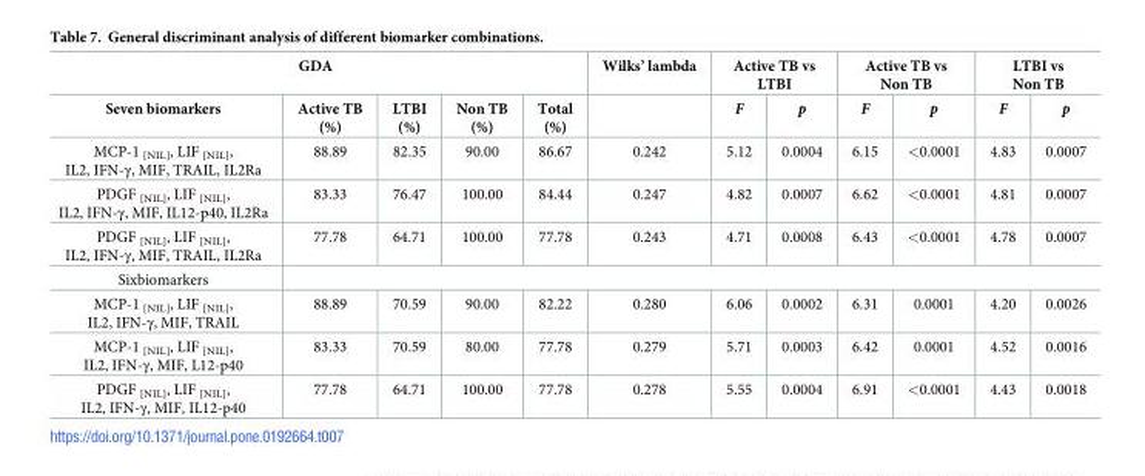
<table><thead><tr><td colspan="5">GDA</td><td rowspan="2">Wilks’ lambda</td><td colspan="2">Active TB vs LTBI</td><td colspan="2">Active TB vs Non TB</td><td colspan="2">LTBI vs Non TB</td></tr><tr><td>Seven biomarkers</td><td>Active TB (%)</td><td>LTBI (%)</td><td>Non TB (%)</td><td>Total (%)</td><td>F</td><td>p</td><td>F</td><td>p</td><td>F</td><td>p</td></tr></thead><tbody><tr><td>MCP-1 <sub>[NIL]</sub>, LIF <sub>[NIL]</sub>, IL2, IFN-γ, MIF, TRAIL, IL2Ra</td><td>88.89</td><td>82.35</td><td>90.00</td><td>86.67</td><td>0.242</td><td>5.12</td><td>0.0004</td><td>6.15</td><td>&lt;0.0001</td><td>4.83</td><td>0.0007</td></tr><tr><td>PDGF <sub>[NIL]</sub>, LIF <sub>[NIL]</sub>, IL2, IFN-γ, MIF, IL12-p40, IL2Ra</td><td>83.33</td><td>76.47</td><td>100.00</td><td>84.44</td><td>0.247</td><td>4.82</td><td>0.0007</td><td>6.62</td><td>&lt;0.0001</td><td>4.81</td><td>0.0007</td></tr><tr><td>PDGF <sub>[NIL]</sub>, LIF <sub>[NIL]</sub>, IL2, IFN-γ, MIF, TRAIL, IL2Ra</td><td>77.78</td><td>64.71</td><td>100.00</td><td>77.78</td><td>0.243</td><td>4.71</td><td>0.0008</td><td>6.43</td><td>&lt;0.0001</td><td>4.78</td><td>0.0007</td></tr><tr><td colspan="12">Sixbiomarkers</td></tr><tr><td>MCP-1 <sub>[NIL]</sub>, LIF <sub>[NIL]</sub>, IL2, IFN-γ, MIF, TRAIL</td><td>88.89</td><td>70.59</td><td>90.00</td><td>82.22</td><td>0.280</td><td>6.06</td><td>0.0002</td><td>6.31</td><td>0.0001</td><td>4.20</td><td>0.0026</td></tr><tr><td>MCP-1 <sub>[NIL]</sub>, LIF <sub>[NIL]</sub>, IL2, IFN-γ, MIF, L12-p40</td><td>83.33</td><td>70.59</td><td>80.00</td><td>77.78</td><td>0.279</td><td>5.71</td><td>0.0003</td><td>6.42</td><td>0.0001</td><td>4.52</td><td>0.0016</td></tr><tr><td>PDGF <sub>[NIL]</sub>, LIF <sub>[NIL]</sub>, IL2, IFN-γ, MIF, IL12-p40</td><td>77.78</td><td>64.71</td><td>100.00</td><td>77.78</td><td>0.278</td><td>5.55</td><td>0.0004</td><td>6.91</td><td>&lt;0.0001</td><td>4.43</td><td>0.0018</td></tr></tbody></table>